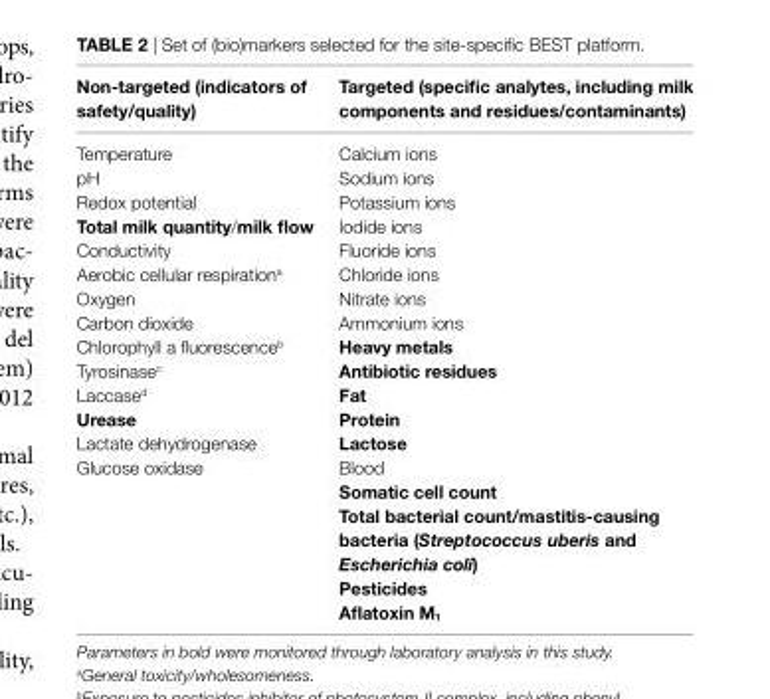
<table><thead><tr><td>non-targeted (indicators of safety/quality)</td><td>Targeted (specific analytes, including milk components and residues/contaminants)</td></tr></thead><tbody><tr><td>Temperature</td><td>Calcium ions</td></tr><tr><td>pH</td><td>Sodium ions</td></tr><tr><td>Redox potential</td><td>Potassium ions</td></tr><tr><td>Total milk quantity/milk flow</td><td>Iodide ions</td></tr><tr><td>Conductivity</td><td>Fluoride ions</td></tr><tr><td>Aerobic cellular respiration<sup>a</sup></td><td>Chloride ions</td></tr><tr><td>Oxygen</td><td>Nitrate ions</td></tr><tr><td>Carbon dioxide</td><td>Ammonium ions</td></tr><tr><td>Chlorophyll a fluorescence<sup>b</sup></td><td>heavy metals</td></tr><tr><td>Tyrosinase<sup>c</sup></td><td>antibiotic residues</td></tr><tr><td>Laccase<sup>d</sup></td><td>Fat</td></tr><tr><td>Urease</td><td>Protein</td></tr><tr><td>Lactate dehydrogenase</td><td>lactose</td></tr><tr><td rowspan="5">Glucose oxidase</td><td>Blood</td></tr><tr><td>somatic cell count</td></tr><tr><td>Total bacterial count/mastitis-causing bacteria (Streptococcus uberis and Escherichia coli)</td></tr><tr><td>Pesticides</td></tr><tr><td>aflatoxin M<sub>1</sub></td></tr></tbody></table>